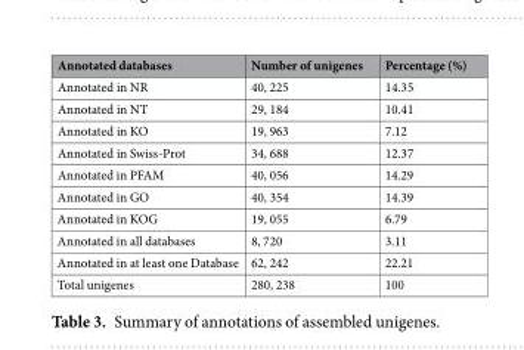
<table><thead><tr><td>Annotated databases</td><td>Number of unigenes</td><td>Percentage (%)</td></tr></thead><tbody><tr><td>Annotated in NR</td><td>40, 225</td><td>14.35</td></tr><tr><td>Annotated in NT</td><td>29, 184</td><td>10.41</td></tr><tr><td>Annotated in KO</td><td>19, 963</td><td>7.12</td></tr><tr><td>Annotated in Swiss-Prot</td><td>34, 688</td><td>12.37</td></tr><tr><td>Annotated in PFAM</td><td>40, 056</td><td>14.29</td></tr><tr><td>Annotated in GO</td><td>40, 354</td><td>14.39</td></tr><tr><td>Annotated in KOG</td><td>19, 055</td><td>6.79</td></tr><tr><td>Annotated in all databases</td><td>8, 720</td><td>3.11</td></tr><tr><td>Annotated in at least one Database</td><td>62, 242</td><td>22.21</td></tr><tr><td>Total unigenes</td><td>280, 238</td><td>100</td></tr></tbody></table>